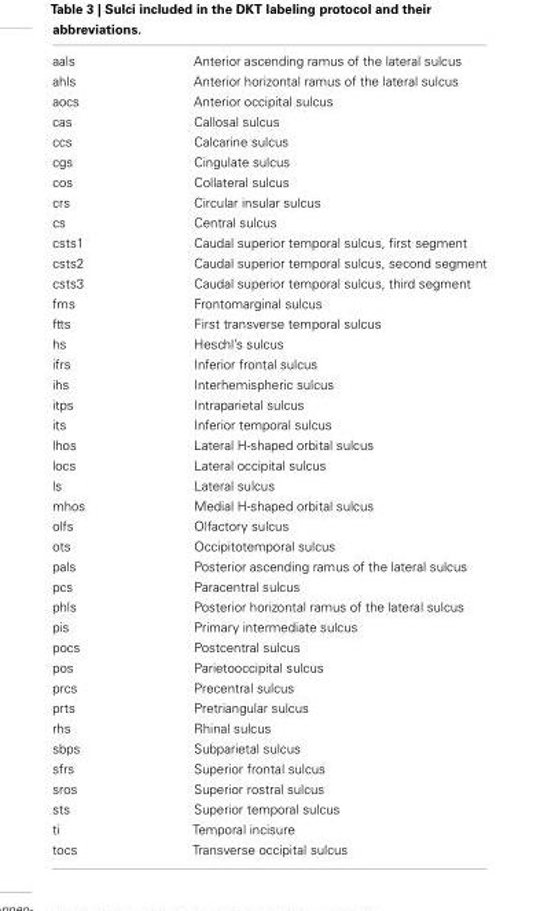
<table><tbody><tr><td>aals</td><td>Anterior ascending ramus of the lateral sulcus</td></tr><tr><td>ahls</td><td>Anterior horizontal ramus of the lateral sulcus</td></tr><tr><td>aocs</td><td>Anterior occipital sulcus</td></tr><tr><td>cas</td><td>Callosal sulcus</td></tr><tr><td>ccs</td><td>Calcarine sulcus</td></tr><tr><td>cgs</td><td>Cingulate sulcus</td></tr><tr><td>cos</td><td>Collateral sulcus</td></tr><tr><td>crs</td><td>Circular insular sulcus</td></tr><tr><td>cs</td><td>Central sulcus</td></tr><tr><td>csts1</td><td>Caudal superior temporal sulcus, first segment</td></tr><tr><td>csts2</td><td>Caudal superior temporal sulcus, second segment</td></tr><tr><td>csts3</td><td>Caudal superior temporal sulcus, third segment</td></tr><tr><td>fms</td><td>Frontomarginal sulcus</td></tr><tr><td>ftts</td><td>First transverse temporal sulcus</td></tr><tr><td>hs</td><td>Heschl’s sulcus</td></tr><tr><td>ifrs</td><td>Inferior frontal sulcus</td></tr><tr><td>ihs</td><td>Interhemispheric sulcus</td></tr><tr><td>itps</td><td>Intraparietal sulcus</td></tr><tr><td>its</td><td>Inferior temporal sulcus</td></tr><tr><td>lhos</td><td>Lateral H-shaped orbital sulcus</td></tr><tr><td>locs</td><td>Lateral occipital sulcus</td></tr><tr><td>ls</td><td>Lateral sulcus</td></tr><tr><td>mhos</td><td>Medial H-shaped orbital sulcus</td></tr><tr><td>olfs</td><td>Olfactory sulcus</td></tr><tr><td>ots</td><td>Occipitotemporal sulcus</td></tr><tr><td>pals</td><td>Posterior ascending ramus of the lateral sulcus</td></tr><tr><td>pcs</td><td>Paracentral sulcus</td></tr><tr><td>phls</td><td>Posterior horizontal ramus of the lateral sulcus</td></tr><tr><td>pis</td><td>Primary intermediate sulcus</td></tr><tr><td>pocs</td><td>Postcentral sulcus</td></tr><tr><td>pos</td><td>Parietooccipital sulcus</td></tr><tr><td>prcs</td><td>Precentral sulcus</td></tr><tr><td>prts</td><td>Pretriangular sulcus</td></tr><tr><td>rhs</td><td>Rhinal sulcus</td></tr><tr><td>sbps</td><td>Subparietal sulcus</td></tr><tr><td>sfrs</td><td>Superior frontal sulcus</td></tr><tr><td>sros</td><td>Superior rostral sulcus</td></tr><tr><td>sts</td><td>Superior temporal sulcus</td></tr><tr><td>ti</td><td>Temporal incisure</td></tr><tr><td>tocs</td><td>Transverse occipital sulcus</td></tr></tbody></table>